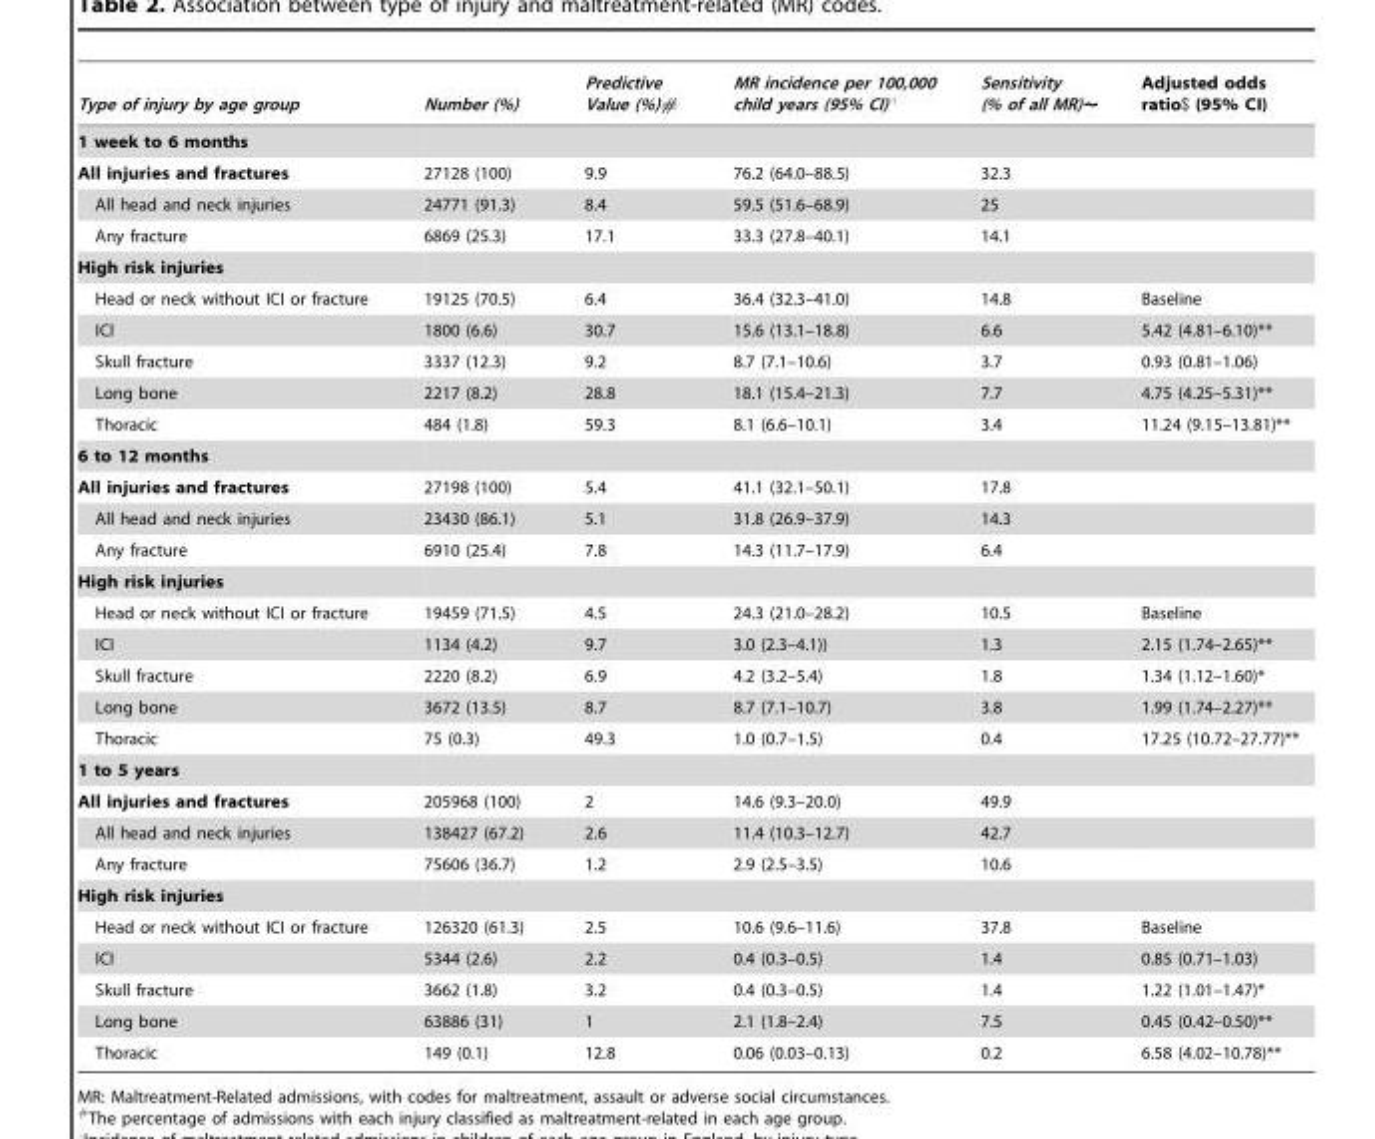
<table><thead><tr><td>Type of injury by age group</td><td>Number (%)</td><td>Predictive Value (%)#</td><td>MR incidence per 100,000 child years (95% CI)‘</td><td>Sensitivity (% of all MR)∼</td><td>Adjusted odds ratio$ (95% CI)</td></tr></thead><tbody><tr><td colspan="6">1 week to 6 months</td></tr><tr><td>All injuries and fractures</td><td>27128 (100)</td><td>9.9</td><td>76.2 (64.0–88.5)</td><td>32.3</td><td></td></tr><tr><td>All head and neck injuries</td><td>24771 (91.3)</td><td>8.4</td><td>59.5 (51.6–68.9)</td><td>25</td><td></td></tr><tr><td>Any fracture</td><td>6869 (25.3)</td><td>17.1</td><td>33.3 (27.8–40.1)</td><td>14.1</td><td></td></tr><tr><td colspan="6">High risk injuries</td></tr><tr><td>Head or neck without ICI or fracture</td><td>19125 (70.5)</td><td>6.4</td><td>36.4 (32.3–41.0)</td><td>14.8</td><td>Baseline</td></tr><tr><td>ICI</td><td>1800 (6.6)</td><td>30.7</td><td>15.6 (13.1–18.8)</td><td>6.6</td><td>5.42 (4.81–6.10)**</td></tr><tr><td>Skull fracture</td><td>3337 (12.3)</td><td>9.2</td><td>8.7 (7.1–10.6)</td><td>3.7</td><td>0.93 (0.81–1.06)</td></tr><tr><td>Long bone</td><td>2217 (8.2)</td><td>28.8</td><td>18.1 (15.4–21.3)</td><td>7.7</td><td>4.75 (4.25–5.31)**</td></tr><tr><td>Thoracic</td><td>484 (1.8)</td><td>59.3</td><td>8.1 (6.6–10.1)</td><td>3.4</td><td>11.24 (9.15–13.81)**</td></tr><tr><td colspan="6">6 to 12 months</td></tr><tr><td>All injuries and fractures</td><td>27198 (100)</td><td>5.4</td><td>41.1 (32.1–50.1)</td><td>17.8</td><td></td></tr><tr><td>All head and neck injuries</td><td>23430 (86.1)</td><td>5.1</td><td>31.8 (26.9–37.9)</td><td>14.3</td><td></td></tr><tr><td>Any fracture</td><td>6910 (25.4)</td><td>7.8</td><td>14.3 (11.7–17.9)</td><td>6.4</td><td></td></tr><tr><td colspan="6">High risk injuries</td></tr><tr><td>Head or neck without ICI or fracture</td><td>19459 (71.5)</td><td>4.5</td><td>24.3 (21.0–28.2)</td><td>10.5</td><td>Baseline</td></tr><tr><td>ICI</td><td>1134 (4.2)</td><td>9.7</td><td>3.0 (2.3–4.1))</td><td>1.3</td><td>2.15 (1.74–2.65)**</td></tr><tr><td>Skull fracture</td><td>2220 (8.2)</td><td>6.9</td><td>4.2 (3.2–5.4)</td><td>1.8</td><td>1.34 (1.12–1.60)*</td></tr><tr><td>Long bone</td><td>3672 (13.5)</td><td>8.7</td><td>8.7 (7.1–10.7)</td><td>3.8</td><td>1.99 (1.74–2.27)**</td></tr><tr><td>Thoracic</td><td>75 (0.3)</td><td>49.3</td><td>1.0 (0.7–1.5)</td><td>0.4</td><td>17.25 (10.72–27.77)**</td></tr><tr><td colspan="6">1 to 5 years</td></tr><tr><td>All injuries and fractures</td><td>205968 (100)</td><td>2</td><td>14.6 (9.3–20.0)</td><td>49.9</td><td></td></tr><tr><td>All head and neck injuries</td><td>138427 (67.2)</td><td>2.6</td><td>11.4 (10.3–12.7)</td><td>42.7</td><td></td></tr><tr><td>Any fracture</td><td>75606 (36.7)</td><td>1.2</td><td>2.9 (2.5–3.5)</td><td>10.6</td><td></td></tr><tr><td colspan="6">High risk injuries</td></tr><tr><td>Head or neck without ICI or fracture</td><td>126320 (61.3)</td><td>2.5</td><td>10.6 (9.6–11.6)</td><td>37.8</td><td>Baseline</td></tr><tr><td>ICI</td><td>5344 (2.6)</td><td>2.2</td><td>0.4 (0.3–0.5)</td><td>1.4</td><td>0.85 (0.71–1.03)</td></tr><tr><td>Skull fracture</td><td>3662 (1.8)</td><td>3.2</td><td>0.4 (0.3–0.5)</td><td>1.4</td><td>1.22 (1.01–1.47)*</td></tr><tr><td>Long bone</td><td>63886 (31)</td><td>1</td><td>2.1 (1.8–2.4)</td><td>7.5</td><td>0.45 (0.42–0.50)**</td></tr><tr><td>Thoracic</td><td>149 (0.1)</td><td>12.8</td><td>0.06 (0.03–0.13)</td><td>0.2</td><td>6.58 (4.02–10.78)**</td></tr></tbody></table>